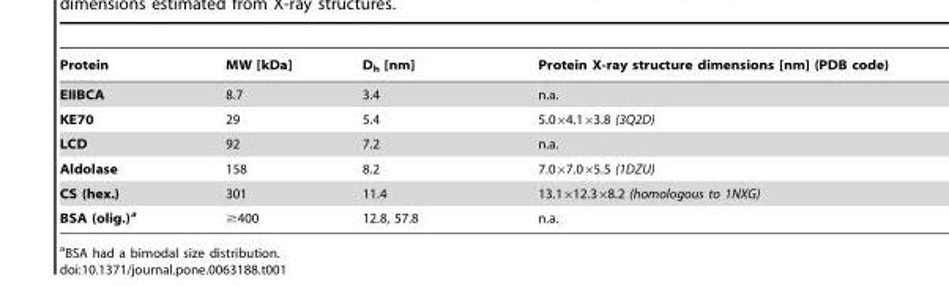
<table><thead><tr><td>Protein</td><td>MW [kDa]</td><td>D<sub>h</sub> [nm]</td><td>Protein X-ray structure dimensions [nm] (PDB code)</td></tr></thead><tbody><tr><td>EIIBCA</td><td>8.7</td><td>3.4</td><td>n.a.</td></tr><tr><td>KE70</td><td>29</td><td>5.4</td><td>5.0×4.1×3.8 (3Q2D)</td></tr><tr><td>LCD</td><td>92</td><td>7.2</td><td>n.a.</td></tr><tr><td>Aldolase</td><td>158</td><td>8.2</td><td>7.0×7.0×5.5 (1DZU)</td></tr><tr><td>CS (hex.)</td><td>301</td><td>11.4</td><td>13.1×12.3×8.2 (homologous to 1NXG)</td></tr><tr><td>BSA (olig.)a</td><td>≥400</td><td>12.8, 57.8</td><td>n.a.</td></tr></tbody></table>